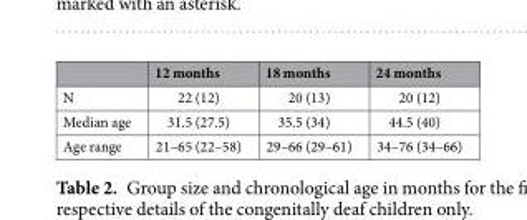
<table><thead><tr><td></td><td>12 months</td><td>18 months</td><td>24 months</td></tr></thead><tbody><tr><td>N</td><td>22 (12)</td><td>20 (13)</td><td>20 (12)</td></tr><tr><td>Median age</td><td>31.5 (27.5)</td><td>35.5 (34)</td><td>44.5 (40)</td></tr><tr><td>Age range</td><td>21–65 (22–58)</td><td>29–66 (29–61)</td><td>34–76 (34–66)</td></tr></tbody></table>